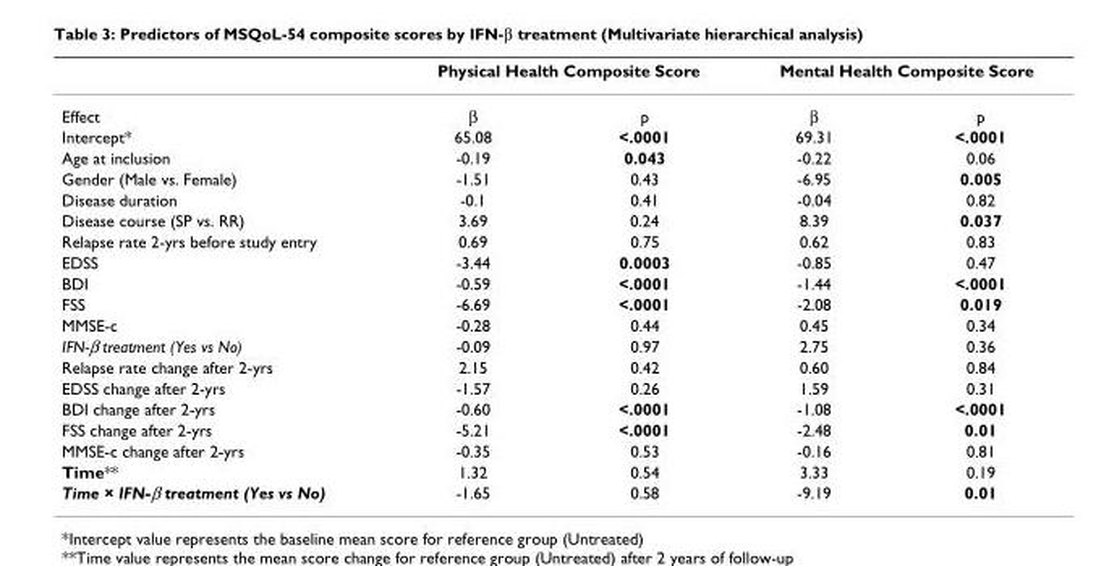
<table><thead><tr><td rowspan="2">Effect</td><td colspan="2">Physical Health Composite Score</td><td colspan="2">Mental Health Composite Score</td></tr><tr><td>β</td><td>p</td><td>β</td><td>p</td></tr></thead><tbody><tr><td>Intercept*</td><td>65.08</td><td>&lt;.0001</td><td>69.31</td><td>&lt;.0001</td></tr><tr><td>Age at inclusion</td><td>-0.19</td><td>0.043</td><td>-0.22</td><td>0.06</td></tr><tr><td>Gender (Male vs. Female)</td><td>-1.51</td><td>0.43</td><td>-6.95</td><td>0.005</td></tr><tr><td>Disease duration</td><td>-0.1</td><td>0.41</td><td>-0.04</td><td>0.82</td></tr><tr><td>Disease course (SP vs. RR)</td><td>3.69</td><td>0.24</td><td>8.39</td><td>0.037</td></tr><tr><td>Relapse rate 2-yrs before study entry</td><td>0.69</td><td>0.75</td><td>0.62</td><td>0.83</td></tr><tr><td>EDSS</td><td>-3.44</td><td>0.0003</td><td>-0.85</td><td>0.47</td></tr><tr><td>BDI</td><td>-0.59</td><td>&lt;.0001</td><td>-1.44</td><td>&lt;.0001</td></tr><tr><td>FSS</td><td>-6.69</td><td>&lt;.0001</td><td>-2.08</td><td>0.019</td></tr><tr><td>MMSE-c</td><td>-0.28</td><td>0.44</td><td>0.45</td><td>0.34</td></tr><tr><td>IFN-β treatment (Yes vs No)</td><td>-0.09</td><td>0.97</td><td>2.75</td><td>0.36</td></tr><tr><td>Relapse rate change after 2-yrs</td><td>2.15</td><td>0.42</td><td>0.60</td><td>0.84</td></tr><tr><td>EDSS change after 2-yrs</td><td>-1.57</td><td>0.26</td><td>1.59</td><td>0.31</td></tr><tr><td>BDI change after 2-yrs</td><td>-0.60</td><td>&lt;.0001</td><td>-1.08</td><td>&lt;.0001</td></tr><tr><td>FSS change after 2-yrs</td><td>-5.21</td><td>&lt;.0001</td><td>-2.48</td><td>0.01</td></tr><tr><td>MMSE-c change after 2-yrs</td><td>-0.35</td><td>0.53</td><td>-0.16</td><td>0.81</td></tr><tr><td>Time**</td><td>1.32</td><td>0.54</td><td>3.33</td><td>0.19</td></tr><tr><td>Time × IFN-β treatment (Yes vs No)</td><td>-1.65</td><td>0.58</td><td>-9.19</td><td>0.01</td></tr></tbody></table>